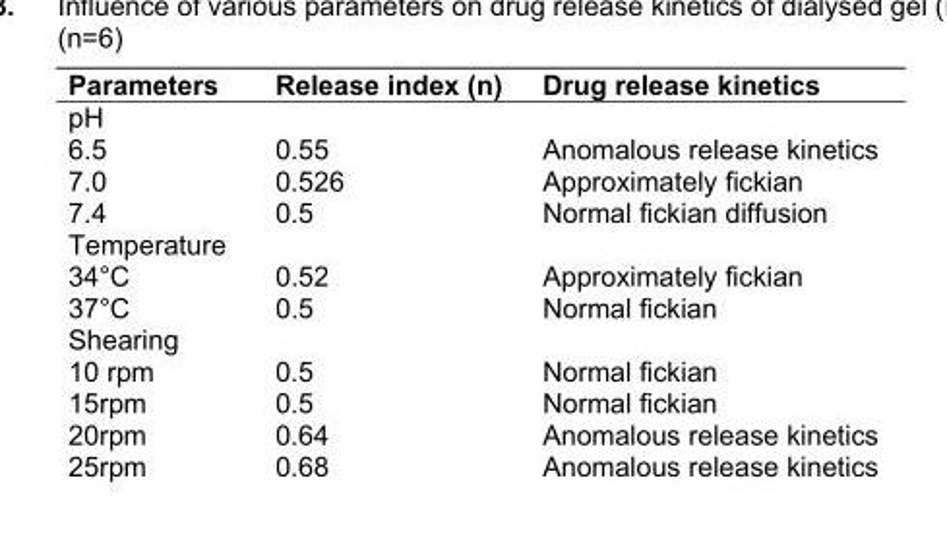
<table><thead><tr><td>Parameters</td><td>Release index (n)</td><td>Drug release kinetics</td></tr></thead><tbody><tr><td colspan="3">pH</td></tr><tr><td>6.5</td><td>0.55</td><td>Anomalous release kinetics</td></tr><tr><td>7.0</td><td>0.526</td><td>Approximately fickian</td></tr><tr><td>7.4</td><td>0.5</td><td>Normal fickian diffusion</td></tr><tr><td colspan="3">Temperature</td></tr><tr><td>34°C</td><td>0.52</td><td>Approximately fickian</td></tr><tr><td>37°C</td><td>0.5</td><td>Normal fickian</td></tr><tr><td colspan="3">Shearing</td></tr><tr><td>10 rpm</td><td>0.5</td><td>Normal fickian</td></tr><tr><td>15rpm</td><td>0.5</td><td>Normal fickian</td></tr><tr><td>20rpm</td><td>0.64</td><td>Anomalous release kinetics</td></tr><tr><td>25rpm</td><td>0.68</td><td>Anomalous release kinetics</td></tr></tbody></table>